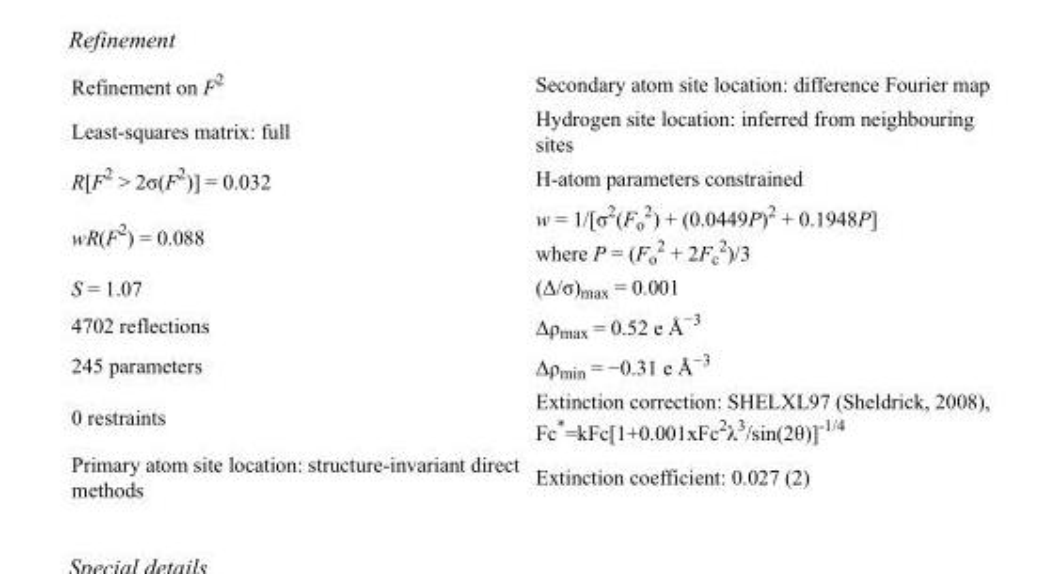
<table><tbody><tr><td>Refinement on F<sup>2</sup></td><td>Secondary atom site location: difference Fourier map</td></tr><tr><td>Least-squares matrix: full</td><td>Hydrogen site location: inferred from neighbouring sites</td></tr><tr><td>R[F<sup>2</sup> &gt; 2σ(F<sup>2</sup>)] = 0.032</td><td>H-atom parameters constrained</td></tr><tr><td>wR(F<sup>2</sup>) = 0.088</td><td>w = 1/[σ<sup>2</sup>(F<sub>o</sub> <sup>2</sup>) + (0.0449P)<sup>2</sup> + 0.1948P] where P = (F<sub>o</sub> <sup>2</sup> + 2F<sub>c</sub> <sup>2</sup>)/3</td></tr><tr><td>S = 1.07</td><td>(Δ/σ)<sub>max</sub> = 0.001</td></tr><tr><td>4702 reflections</td><td>Δρ<sub>max</sub> = 0.52 e Å<sup>−3</sup></td></tr><tr><td>245 parameters</td><td>Δρmin = −0.31 e Å−3</td></tr><tr><td>0 restraints</td><td>Extinction correction: SHELXL97 (Sheldrick, 2008), Fc*=kFc[1+0.001xFc<sup>2</sup>λ<sup>3</sup>/sin(2θ)]<sup>-1/4</sup></td></tr><tr><td>Primary atom site location: structure-invariant direct methods</td><td>Extinction coefficient: 0.027 (2)</td></tr></tbody></table>